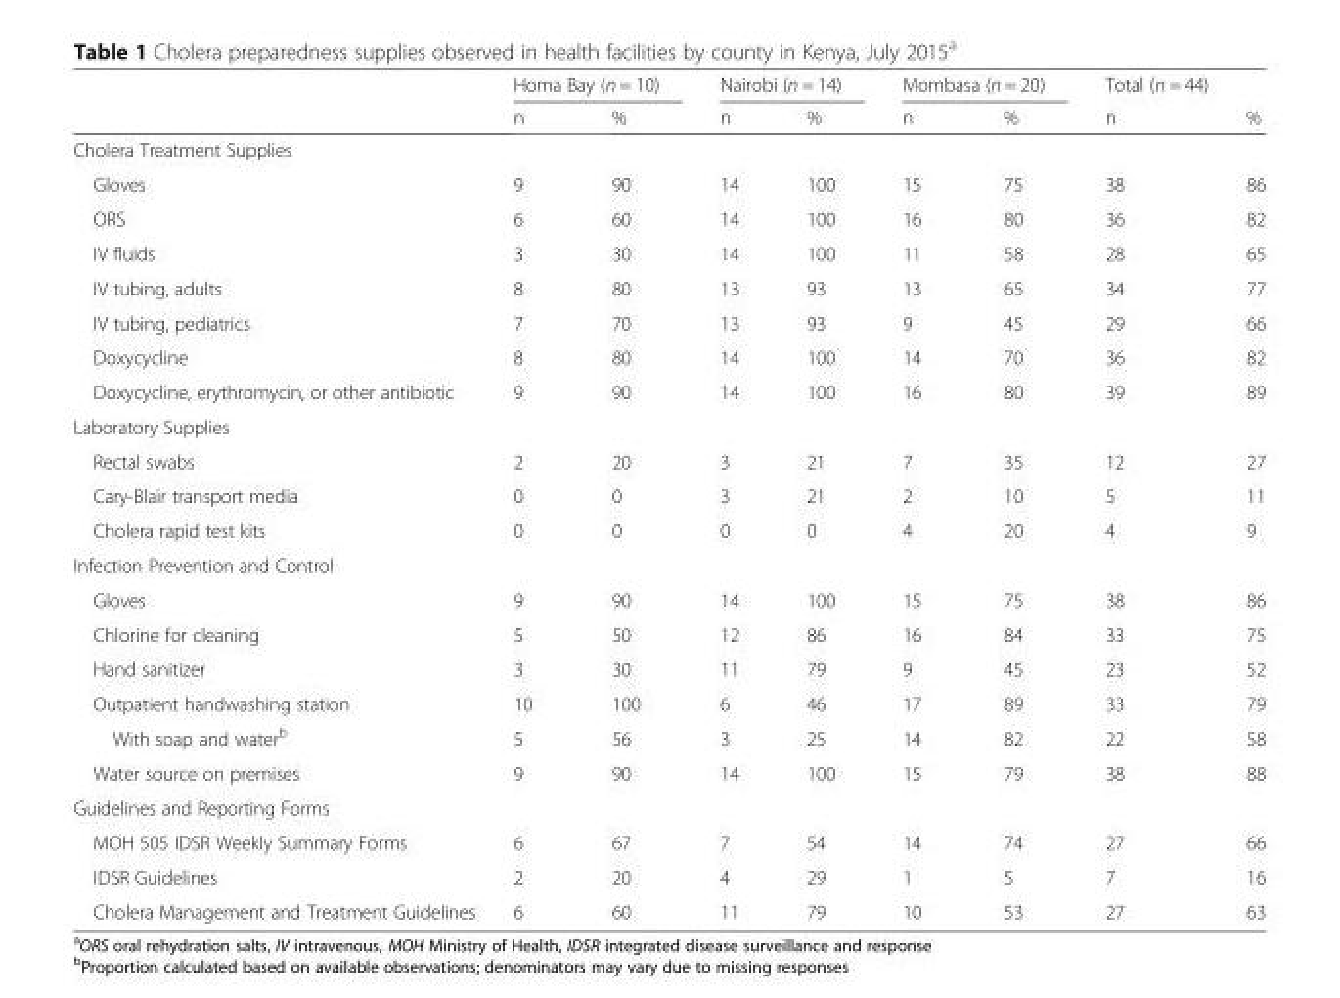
<table><thead><tr><td rowspan="2"></td><td colspan="2">Homa Bay (n = 10)</td><td colspan="2">Nairobi (n = 14)</td><td colspan="2">Mombasa (n = 20)</td><td rowspan="2">Total (n = 44) n</td><td rowspan="2">%</td></tr><tr><td>n</td><td>%</td><td>n</td><td>%</td><td>n</td><td>%</td></tr></thead><tbody><tr><td colspan="9">Cholera Treatment Supplies</td></tr><tr><td>Gloves</td><td>9</td><td>90</td><td>14</td><td>100</td><td>15</td><td>75</td><td>38</td><td>86</td></tr><tr><td>ORS</td><td>6</td><td>60</td><td>14</td><td>100</td><td>16</td><td>80</td><td>36</td><td>82</td></tr><tr><td>IV fluids</td><td>3</td><td>30</td><td>14</td><td>100</td><td>11</td><td>58</td><td>28</td><td>65</td></tr><tr><td>IV tubing, adults</td><td>8</td><td>80</td><td>13</td><td>93</td><td>13</td><td>65</td><td>34</td><td>77</td></tr><tr><td>IV tubing, pediatrics</td><td>7</td><td>70</td><td>13</td><td>93</td><td>9</td><td>45</td><td>29</td><td>66</td></tr><tr><td>Doxycycline</td><td>8</td><td>80</td><td>14</td><td>100</td><td>14</td><td>70</td><td>36</td><td>82</td></tr><tr><td>Doxycycline, erythromycin, or other antibiotic</td><td>9</td><td>90</td><td>14</td><td>100</td><td>16</td><td>80</td><td>39</td><td>89</td></tr><tr><td colspan="9">Laboratory Supplies</td></tr><tr><td>Rectal swabs</td><td>2</td><td>20</td><td>3</td><td>21</td><td>7</td><td>35</td><td>12</td><td>27</td></tr><tr><td>Cary-Blair transport media</td><td>0</td><td>0</td><td>3</td><td>21</td><td>2</td><td>10</td><td>5</td><td>11</td></tr><tr><td>Cholera rapid test kits</td><td>0</td><td>0</td><td>0</td><td>0</td><td>4</td><td>20</td><td>4</td><td>9</td></tr><tr><td colspan="9">Infection Prevention and Control</td></tr><tr><td>Gloves</td><td>9</td><td>90</td><td>14</td><td>100</td><td>15</td><td>75</td><td>38</td><td>86</td></tr><tr><td>Chlorine for cleaning</td><td>5</td><td>50</td><td>12</td><td>86</td><td>16</td><td>84</td><td>33</td><td>75</td></tr><tr><td>Hand sanitizer</td><td>3</td><td>30</td><td>11</td><td>79</td><td>9</td><td>45</td><td>23</td><td>52</td></tr><tr><td>Outpatient handwashing station</td><td>10</td><td>100</td><td>6</td><td>46</td><td>17</td><td>89</td><td>33</td><td>79</td></tr><tr><td>With soap and water<sup>b</sup></td><td>5</td><td>56</td><td>3</td><td>25</td><td>14</td><td>82</td><td>22</td><td>58</td></tr><tr><td>Water source on premises</td><td>9</td><td>90</td><td>14</td><td>100</td><td>15</td><td>79</td><td>38</td><td>88</td></tr><tr><td colspan="9">Guidelines and Reporting Forms</td></tr><tr><td>MOH 505 IDSR Weekly Summary Forms</td><td>6</td><td>67</td><td>7</td><td>54</td><td>14</td><td>74</td><td>27</td><td>66</td></tr><tr><td>IDSR Guidelines</td><td>2</td><td>20</td><td>4</td><td>29</td><td>1</td><td>5</td><td>7</td><td>16</td></tr><tr><td>Cholera Management and Treatment Guidelines</td><td>6</td><td>60</td><td>11</td><td>79</td><td>10</td><td>53</td><td>27</td><td>63</td></tr></tbody></table>